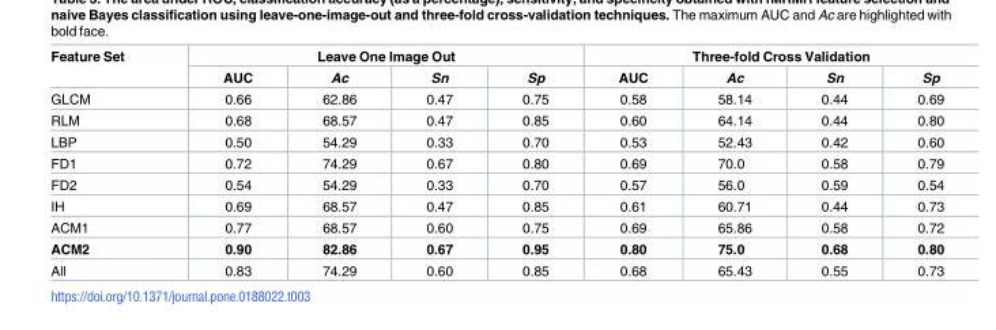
<table><thead><tr><td rowspan="2">Feature Set</td><td colspan="4">Leave One Image Out</td><td colspan="4">Three-fold Cross Validation</td></tr><tr><td>AUC</td><td>Ac</td><td>Sn</td><td>Sp</td><td>AUC</td><td>Ac</td><td>Sn</td><td>Sp</td></tr></thead><tbody><tr><td>GLCM</td><td>0.66</td><td>62.86</td><td>0.47</td><td>0.75</td><td>0.58</td><td>58.14</td><td>0.44</td><td>0.69</td></tr><tr><td>RLM</td><td>0.68</td><td>68.57</td><td>0.47</td><td>0.85</td><td>0.60</td><td>64.14</td><td>0.44</td><td>0.80</td></tr><tr><td>LBP</td><td>0.50</td><td>54.29</td><td>0.33</td><td>0.70</td><td>0.53</td><td>52.43</td><td>0.42</td><td>0.60</td></tr><tr><td>FD1</td><td>0.72</td><td>74.29</td><td>0.67</td><td>0.80</td><td>0.69</td><td>70.0</td><td>0.58</td><td>0.79</td></tr><tr><td>FD2</td><td>0.54</td><td>54.29</td><td>0.33</td><td>0.70</td><td>0.57</td><td>56.0</td><td>0.59</td><td>0.54</td></tr><tr><td>IH</td><td>0.69</td><td>68.57</td><td>0.47</td><td>0.85</td><td>0.61</td><td>60.71</td><td>0.44</td><td>0.73</td></tr><tr><td>ACM1</td><td>0.77</td><td>68.57</td><td>0.60</td><td>0.75</td><td>0.69</td><td>65.86</td><td>0.58</td><td>0.72</td></tr><tr><td>ACM2</td><td>0.90</td><td>82.86</td><td>0.67</td><td>0.95</td><td>0.80</td><td>75.0</td><td>0.68</td><td>0.80</td></tr><tr><td>All</td><td>0.83</td><td>74.29</td><td>0.60</td><td>0.85</td><td>0.68</td><td>65.43</td><td>0.55</td><td>0.73</td></tr></tbody></table>